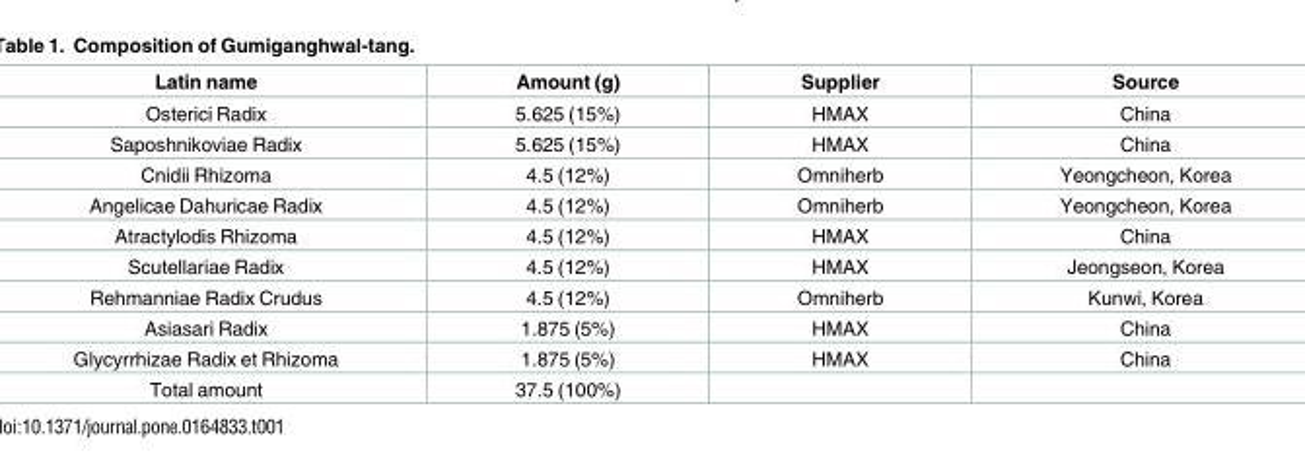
<table><thead><tr><td>Latin name</td><td>Amount (g)</td><td>Supplier</td><td>Source</td></tr></thead><tbody><tr><td>Osterici Radix</td><td>5.625 (15%)</td><td>HMAX</td><td>China</td></tr><tr><td>Saposhnikoviae Radix</td><td>5.625 (15%)</td><td>HMAX</td><td>China</td></tr><tr><td>Cnidii Rhizoma</td><td>4.5 (12%)</td><td>Omniherb</td><td>Yeongcheon, Korea</td></tr><tr><td>Angelicae Dahuricae Radix</td><td>4.5 (12%)</td><td>Omniherb</td><td>Yeongcheon, Korea</td></tr><tr><td>Atractylodis Rhizoma</td><td>4.5 (12%)</td><td>HMAX</td><td>China</td></tr><tr><td>Scutellariae Radix</td><td>4.5 (12%)</td><td>HMAX</td><td>Jeongseon, Korea</td></tr><tr><td>Rehmanniae Radix Crudus</td><td>4.5 (12%)</td><td>Omniherb</td><td>Kunwi, Korea</td></tr><tr><td>Asiasari Radix</td><td>1.875 (5%)</td><td>HMAX</td><td>China</td></tr><tr><td>Glycyrrhizae Radix et Rhizoma</td><td>1.875 (5%)</td><td>HMAX</td><td>China</td></tr><tr><td>Total amount</td><td>37.5 (100%)</td><td></td><td></td></tr></tbody></table>